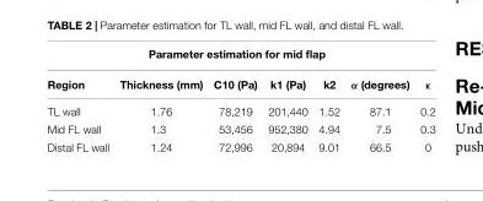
<table><thead><tr><td colspan="7">Parameter estimation for mid flap</td></tr><tr><td>Region</td><td>Thickness (mm)</td><td>C10 (Pa)</td><td>k1 (Pa)</td><td>k2</td><td>α (degrees)</td><td>κ</td></tr></thead><tbody><tr><td>TL wall</td><td>1.76</td><td>78,219</td><td>201,440</td><td>1.52</td><td>87.1</td><td>0.2</td></tr><tr><td>Mid FL wall</td><td>1.3</td><td>53,456</td><td>952,380</td><td>4.94</td><td>7.5</td><td>0.3</td></tr><tr><td>Distal FL wall</td><td>1.24</td><td>72,996</td><td>20,894</td><td>9.01</td><td>66.5</td><td>0</td></tr></tbody></table>